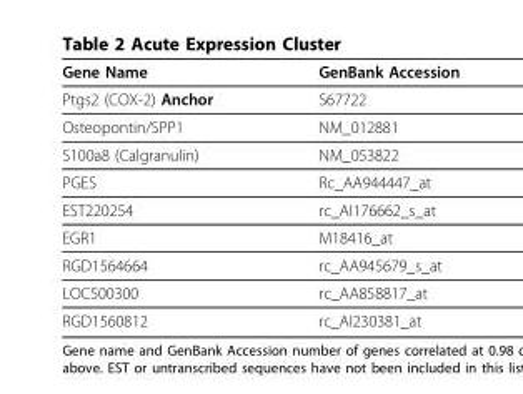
<table><thead><tr><td>Gene Name</td><td>GenBank Accession</td></tr></thead><tbody><tr><td>Ptgs2 (COX-2) Anchor</td><td>S67722</td></tr><tr><td>Osteopontin/SPP1</td><td>NM_012881</td></tr><tr><td>S100a8 (Calgranulin)</td><td>NM_053822</td></tr><tr><td>PGES</td><td>Rc_AA944447_at</td></tr><tr><td>EST220254</td><td>rc_AI176662_s_at</td></tr><tr><td>EGR1</td><td>M18416_at</td></tr><tr><td>RGD1564664</td><td>rc_AA945679_s_at</td></tr><tr><td>LOC500300</td><td>rc_AA858817_at</td></tr><tr><td>RGD1560812</td><td>rc_AI230381_at</td></tr></tbody></table>